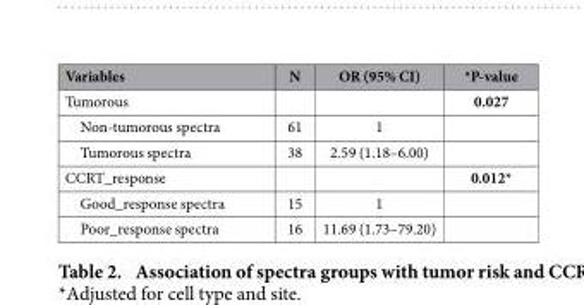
<table><thead><tr><td>Variables</td><td>N</td><td>OR (95% CI)</td><td>*P-value</td></tr></thead><tbody><tr><td>Tumorous</td><td></td><td></td><td>0.027</td></tr><tr><td>Non-tumorous spectra</td><td>61</td><td>1</td><td></td></tr><tr><td>Tumorous spectra</td><td>38</td><td>2.59 (1.18–6.00)</td><td></td></tr><tr><td>CCRT_response</td><td></td><td></td><td>0.012*</td></tr><tr><td>Good_response spectra</td><td>15</td><td>1</td><td></td></tr><tr><td>Poor_response spectra</td><td>16</td><td>11.69 (1.73–79.20)</td><td></td></tr></tbody></table>